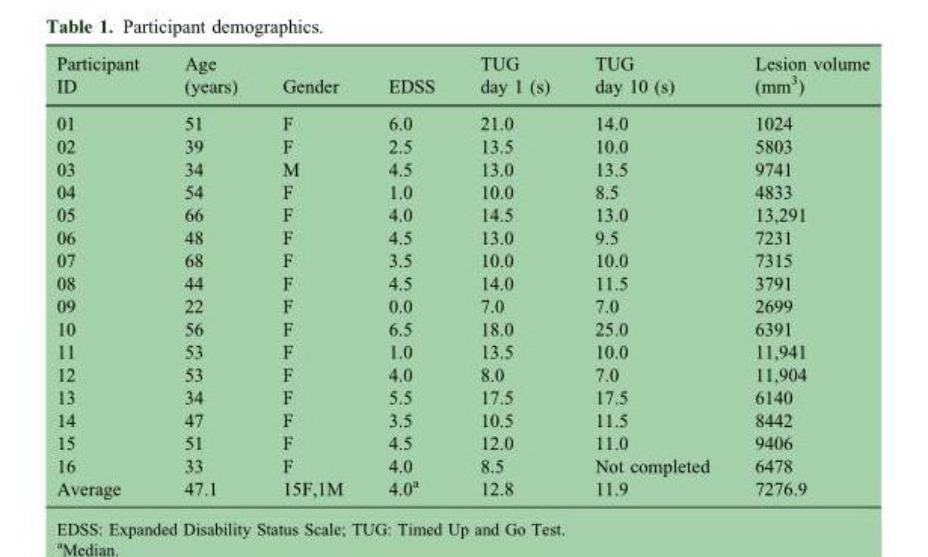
<table><thead><tr><td>Participant ID</td><td>Age (years)</td><td>Gender</td><td>EDSS</td><td>TUG day 1 (s)</td><td>TUG day 10 (s)</td><td>Lesion volume (mm<sup>3</sup>)</td></tr></thead><tbody><tr><td>01</td><td>51</td><td>F</td><td>6.0</td><td>21.0</td><td>14.0</td><td>1024</td></tr><tr><td>02</td><td>39</td><td>F</td><td>2.5</td><td>13.5</td><td>10.0</td><td>5803</td></tr><tr><td>03</td><td>34</td><td>M</td><td>4.5</td><td>13.0</td><td>13.5</td><td>9741</td></tr><tr><td>04</td><td>54</td><td>F</td><td>1.0</td><td>10.0</td><td>8.5</td><td>4833</td></tr><tr><td>05</td><td>66</td><td>F</td><td>4.0</td><td>14.5</td><td>13.0</td><td>13,291</td></tr><tr><td>06</td><td>48</td><td>F</td><td>4.5</td><td>13.0</td><td>9.5</td><td>7231</td></tr><tr><td>07</td><td>68</td><td>F</td><td>3.5</td><td>10.0</td><td>10.0</td><td>7315</td></tr><tr><td>08</td><td>44</td><td>F</td><td>4.5</td><td>14.0</td><td>11.5</td><td>3791</td></tr><tr><td>09</td><td>22</td><td>F</td><td>0.0</td><td>7.0</td><td>7.0</td><td>2699</td></tr><tr><td>10</td><td>56</td><td>F</td><td>6.5</td><td>18.0</td><td>25.0</td><td>6391</td></tr><tr><td>11</td><td>53</td><td>F</td><td>1.0</td><td>13.5</td><td>10.0</td><td>11,941</td></tr><tr><td>12</td><td>53</td><td>F</td><td>4.0</td><td>8.0</td><td>7.0</td><td>11,904</td></tr><tr><td>13</td><td>34</td><td>F</td><td>5.5</td><td>17.5</td><td>17.5</td><td>6140</td></tr><tr><td>14</td><td>47</td><td>F</td><td>3.5</td><td>10.5</td><td>11.5</td><td>8442</td></tr><tr><td>15</td><td>51</td><td>F</td><td>4.5</td><td>12.0</td><td>11.0</td><td>9406</td></tr><tr><td>16</td><td>33</td><td>F</td><td>4.0</td><td>8.5</td><td>Not completed</td><td>6478</td></tr><tr><td>Average</td><td>47.1</td><td>15F,1M</td><td>4.0<sup>a</sup></td><td>12.8</td><td>11.9</td><td>7276.9</td></tr></tbody></table>